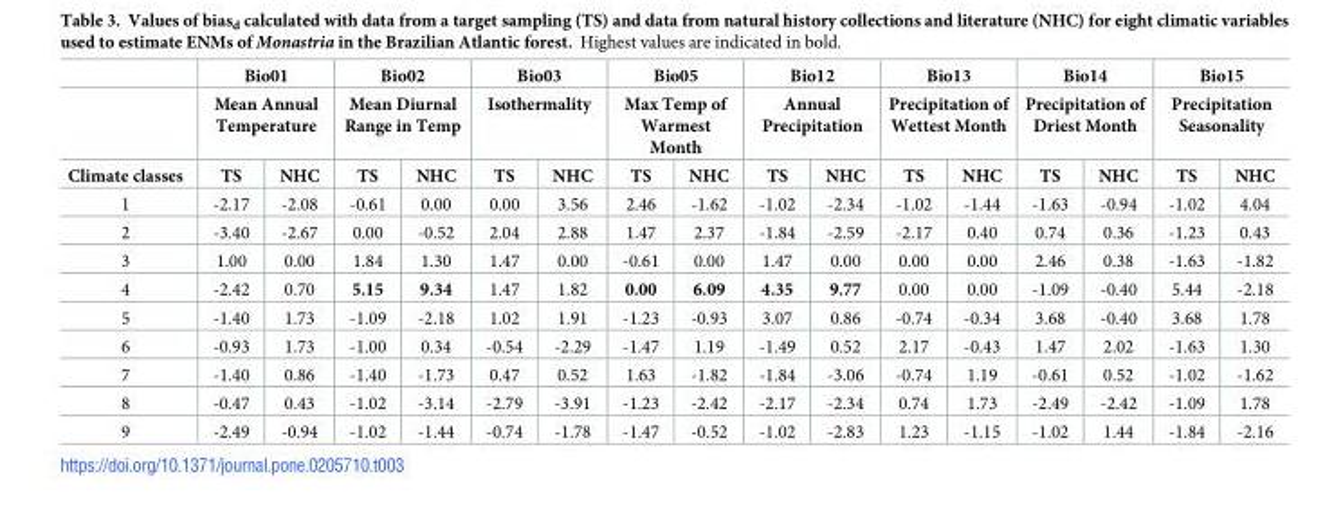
<table><thead><tr><td rowspan="3">Climate classes</td><td rowspan="2" colspan="2">Bio01 Mean Annual Temperature</td><td rowspan="2" colspan="2">Bio02 Mean Diurnal Range in Temp</td><td rowspan="2" colspan="2">Bio03 Isothermality</td><td rowspan="2" colspan="2">Bio05 Max Temp of Warmest Month</td><td rowspan="2" colspan="2">Bio12 Annual Precipitation</td><td rowspan="2" colspan="2">Bio13 Precipitation of Wettest Month</td><td rowspan="2" colspan="2">Bio14 Precipitation of Driest Month</td><td rowspan="2" colspan="2">Bio15 Precipitation Seasonality</td></tr><tr></tr><tr><td>TS</td><td>NHC</td><td>TS</td><td>NHC</td><td>TS</td><td>NHC</td><td>TS</td><td>NHC</td><td>TS</td><td>NHC</td><td>TS</td><td>NHC</td><td>TS</td><td>NHC</td><td>TS</td><td>NHC</td></tr></thead><tbody><tr><td>1</td><td>-2.17</td><td>-2.08</td><td>-0.61</td><td>0.00</td><td>0.00</td><td>3.56</td><td>2.46</td><td>-1.62</td><td>-1.02</td><td>-2.34</td><td>-1.02</td><td>-1.44</td><td>-1.63</td><td>-0.94</td><td>-1.02</td><td>4.04</td></tr><tr><td>2</td><td>-3.40</td><td>-2.67</td><td>0.00</td><td>-0.52</td><td>2.04</td><td>2.88</td><td>1.47</td><td>2.37</td><td>-1.84</td><td>-2.59</td><td>-2.17</td><td>0.40</td><td>0.74</td><td>0.36</td><td>-1.23</td><td>0.43</td></tr><tr><td>3</td><td>1.00</td><td>0.00</td><td>1.84</td><td>1.30</td><td>1.47</td><td>0.00</td><td>-0.61</td><td>0.00</td><td>1.47</td><td>0.00</td><td>0.00</td><td>0.00</td><td>2.46</td><td>0.38</td><td>-1.63</td><td>-1.82</td></tr><tr><td>4</td><td>-2.42</td><td>0.70</td><td>5.15</td><td>9.34</td><td>1.47</td><td>1.82</td><td>0.00</td><td>6.09</td><td>4.35</td><td>9.77</td><td>0.00</td><td>0.00</td><td>-1.09</td><td>-0.40</td><td>5.44</td><td>-2.18</td></tr><tr><td>5</td><td>-1.40</td><td>1.73</td><td>-1.09</td><td>-2.18</td><td>1.02</td><td>1.91</td><td>-1.23</td><td>-0.93</td><td>3.07</td><td>0.86</td><td>-0.74</td><td>-0.34</td><td>3.68</td><td>-0.40</td><td>3.68</td><td>1.78</td></tr><tr><td>6</td><td>-0.93</td><td>1.73</td><td>-1.00</td><td>0.34</td><td>-0.54</td><td>-2.29</td><td>-1.47</td><td>1.19</td><td>-1.49</td><td>0.52</td><td>2.17</td><td>-0.43</td><td>1.47</td><td>2.02</td><td>-1.63</td><td>1.30</td></tr><tr><td>7</td><td>-1.40</td><td>0.86</td><td>-1.40</td><td>-1.73</td><td>0.47</td><td>0.52</td><td>1.63</td><td>-1.82</td><td>-1.84</td><td>-3.06</td><td>-0.74</td><td>1.19</td><td>-0.61</td><td>0.52</td><td>-1.02</td><td>-1.62</td></tr><tr><td>8</td><td>-0.47</td><td>0.43</td><td>-1.02</td><td>-3.14</td><td>-2.79</td><td>-3.91</td><td>-1.23</td><td>-2.42</td><td>-2.17</td><td>-2.34</td><td>0.74</td><td>1.73</td><td>-2.49</td><td>-2.42</td><td>-1.09</td><td>1.78</td></tr><tr><td>9</td><td>-2.49</td><td>-0.94</td><td>-1.02</td><td>-1.44</td><td>-0.74</td><td>-1.78</td><td>-1.47</td><td>-0.52</td><td>-1.02</td><td>-2.83</td><td>1.23</td><td>-1.15</td><td>-1.02</td><td>1.44</td><td>-1.84</td><td>-2.16</td></tr></tbody></table>